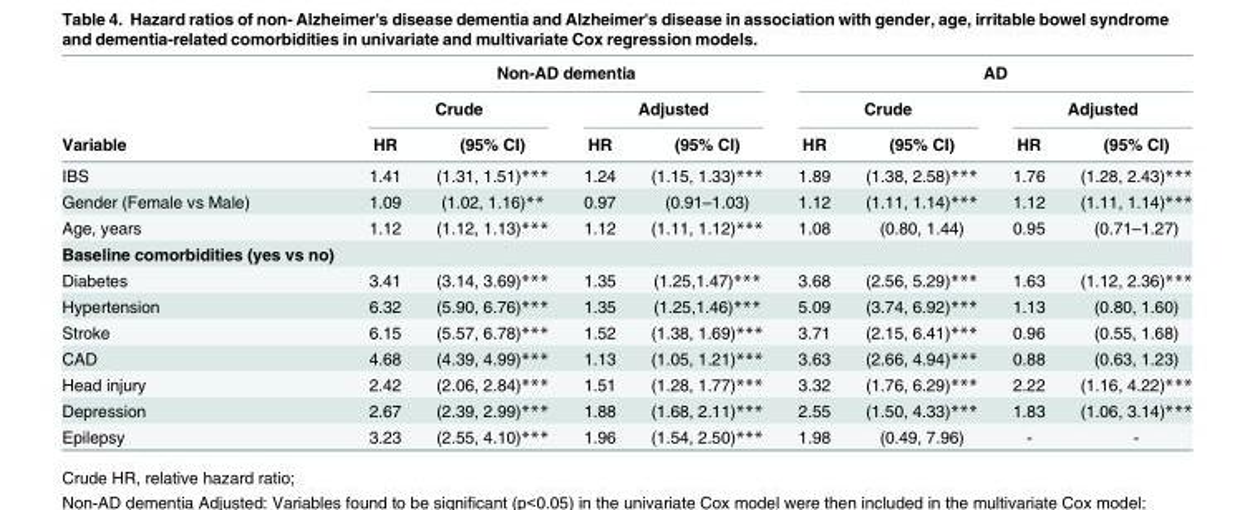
<table><thead><tr><td rowspan="3">Variable</td><td colspan="4">Non-AD dementia</td><td colspan="4">AD</td></tr><tr><td colspan="2">Crude</td><td colspan="2">Adjusted</td><td colspan="2">Crude</td><td colspan="2">Adjusted</td></tr><tr><td>HR</td><td>(95% CI)</td><td>HR</td><td>(95% CI)</td><td>HR</td><td>(95% CI)</td><td>HR</td><td>(95% CI)</td></tr></thead><tbody><tr><td>IBS</td><td>1.41</td><td>(1.31, 1.51)***</td><td>1.24</td><td>(1.15, 1.33)***</td><td>1.89</td><td>(1.38, 2.58)***</td><td>1.76</td><td>(1.28, 2.43)***</td></tr><tr><td>Gender (Female vs Male)</td><td>1.09</td><td>(1.02, 1.16)**</td><td>0.97</td><td>(0.91–1.03)</td><td>1.12</td><td>(1.11, 1.14)***</td><td>1.12</td><td>(1.11, 1.14)***</td></tr><tr><td>Age, years</td><td>1.12</td><td>(1.12, 1.13)***</td><td>1.12</td><td>(1.11, 1.12)***</td><td>1.08</td><td>(0.80, 1.44)</td><td>0.95</td><td>(0.71–1.27)</td></tr><tr><td colspan="9">Baseline comorbidities (yes vs no)</td></tr><tr><td>Diabetes</td><td>3.41</td><td>(3.14, 3.69)***</td><td>1.35</td><td>(1.25,1.47)***</td><td>3.68</td><td>(2.56, 5.29)***</td><td>1.63</td><td>(1.12, 2.36)***</td></tr><tr><td>Hypertension</td><td>6.32</td><td>(5.90, 6.76)***</td><td>1.35</td><td>(1.25,1.46)***</td><td>5.09</td><td>(3.74, 6.92)***</td><td>1.13</td><td>(0.80, 1.60)</td></tr><tr><td>Stroke</td><td>6.15</td><td>(5.57, 6.78)***</td><td>1.52</td><td>(1.38, 1.69)***</td><td>3.71</td><td>(2.15, 6.41)***</td><td>0.96</td><td>(0.55, 1.68)</td></tr><tr><td>CAD</td><td>4.68</td><td>(4.39, 4.99)***</td><td>1.13</td><td>(1.05, 1.21)***</td><td>3.63</td><td>(2.66, 4.94)***</td><td>0.88</td><td>(0.63, 1.23)</td></tr><tr><td>Head injury</td><td>2.42</td><td>(2.06, 2.84)***</td><td>1.51</td><td>(1.28, 1.77)***</td><td>3.32</td><td>(1.76, 6.29)***</td><td>2.22</td><td>(1.16, 4.22)***</td></tr><tr><td>Depression</td><td>2.67</td><td>(2.39, 2.99)***</td><td>1.88</td><td>(1.68, 2.11)***</td><td>2.55</td><td>(1.50, 4.33)***</td><td>1.83</td><td>(1.06, 3.14)***</td></tr><tr><td>Epilepsy</td><td>3.23</td><td>(2.55, 4.10)***</td><td>1.96</td><td>(1.54, 2.50)***</td><td>1.98</td><td>(0.49, 7.96)</td><td>-</td><td>-</td></tr></tbody></table>